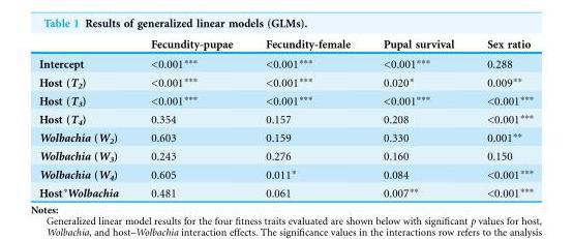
<table><thead><tr><td></td><td>Fecundity-pupae</td><td>Fecundity-female</td><td>Pupal survival</td><td>Sex ratio</td></tr></thead><tbody><tr><td>Intercept</td><td>&lt;0.001***</td><td>&lt;0.001***</td><td>&lt;0.001***</td><td>0.288</td></tr><tr><td>Host (T<sub>2</sub>)</td><td>&lt;0.001***</td><td>&lt;0.001***</td><td>0.020*</td><td>0.009**</td></tr><tr><td>Host (T<sub>3</sub>)</td><td>&lt;0.001***</td><td>&lt;0.001***</td><td>&lt;0.001***</td><td>&lt;0.001***</td></tr><tr><td>Host (T<sub>4</sub>)</td><td>0.354</td><td>0.157</td><td>0.208</td><td>&lt;0.001***</td></tr><tr><td>Wolbachia (W<sub>2</sub>)</td><td>0.603</td><td>0.159</td><td>0.330</td><td>0.001**</td></tr><tr><td>Wolbachia (W<sub>3</sub>)</td><td>0.243</td><td>0.276</td><td>0.160</td><td>0.150</td></tr><tr><td>Wolbachia (W<sub>4</sub>)</td><td>0.605</td><td>0.011*</td><td>0.084</td><td>&lt;0.001***</td></tr><tr><td>Host*Wolbachia</td><td>0.481</td><td>0.061</td><td>0.007**</td><td>&lt;0.001***</td></tr></tbody></table>